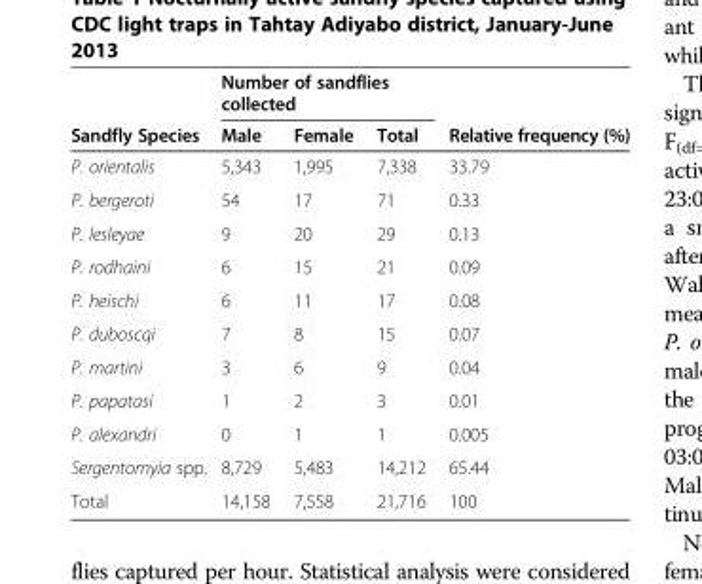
<table><thead><tr><td rowspan="2">Sandfly Species</td><td colspan="3">Number of sandflies collected</td><td rowspan="2">Relative frequency (%)</td></tr><tr><td>Male</td><td>Female</td><td>Total</td></tr></thead><tbody><tr><td>P. orientalis</td><td>5,343</td><td>1,995</td><td>7,338</td><td>33.79</td></tr><tr><td>P. bergeroti</td><td>54</td><td>17</td><td>71</td><td>0.33</td></tr><tr><td>P. lesleyae</td><td>9</td><td>20</td><td>29</td><td>0.13</td></tr><tr><td>P. rodhaini</td><td>6</td><td>15</td><td>21</td><td>0.09</td></tr><tr><td>P. heischi</td><td>6</td><td>11</td><td>17</td><td>0.08</td></tr><tr><td>P. duboscqi</td><td>7</td><td>8</td><td>15</td><td>0.07</td></tr><tr><td>P. martini</td><td>3</td><td>6</td><td>9</td><td>0.04</td></tr><tr><td>P. papatasi</td><td>1</td><td>2</td><td>3</td><td>0.01</td></tr><tr><td>P. alexandri</td><td>0</td><td>1</td><td>1</td><td>0.005</td></tr><tr><td>Sergentomyia spp.</td><td>8,729</td><td>5,483</td><td>14,212</td><td>65.44</td></tr><tr><td>Total</td><td>14,158</td><td>7,558</td><td>21,716</td><td>100</td></tr></tbody></table>